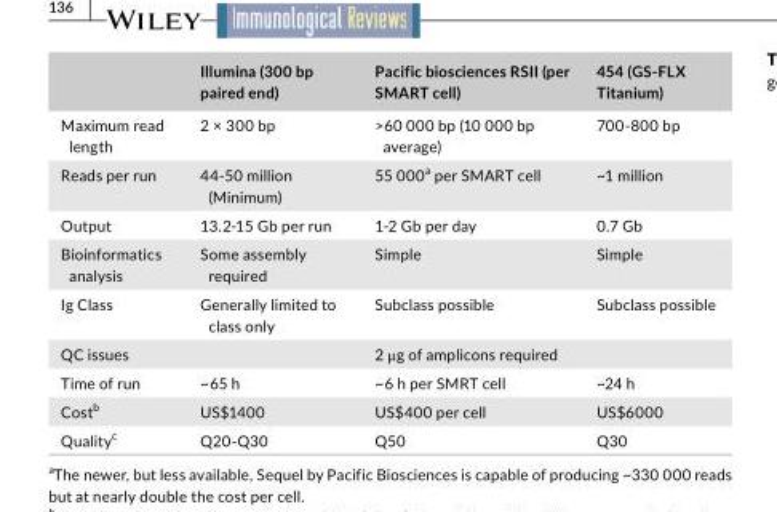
<table><thead><tr><td></td><td>Illumina (300 bp paired end)</td><td>Pacific biosciences RSII (per SMART cell)</td><td>454 (GS- FLX Titanium)</td></tr></thead><tbody><tr><td>Maximum read length</td><td>2 × 300 bp</td><td>&gt;60 000 bp (10 000 bp average)</td><td>700- 800 bp</td></tr><tr><td>Reads per run</td><td>44- 50 million (Minimum)</td><td>55 000<sup>a</sup> per SMART cell</td><td>~1 million</td></tr><tr><td>Output</td><td>13.2- 15 Gb per run</td><td>1- 2 Gb per day</td><td>0.7 Gb</td></tr><tr><td>Bioinformatics analysis</td><td>Some assembly required</td><td>Simple</td><td>Simple</td></tr><tr><td>Ig Class</td><td>Generally limited to class only</td><td>Subclass possible</td><td>Subclass possible</td></tr><tr><td>QC issues</td><td></td><td>2 μg of amplicons required</td><td></td></tr><tr><td>Time of run</td><td>~65 h</td><td>~6 h per SMRT cell</td><td>~24 h</td></tr><tr><td>Cost<sup>b</sup></td><td>US$1400</td><td>US$400 per cell</td><td>US$6000</td></tr><tr><td>Quality<sup>c</sup></td><td>Q20- Q30</td><td>Q50</td><td>Q30</td></tr></tbody></table>